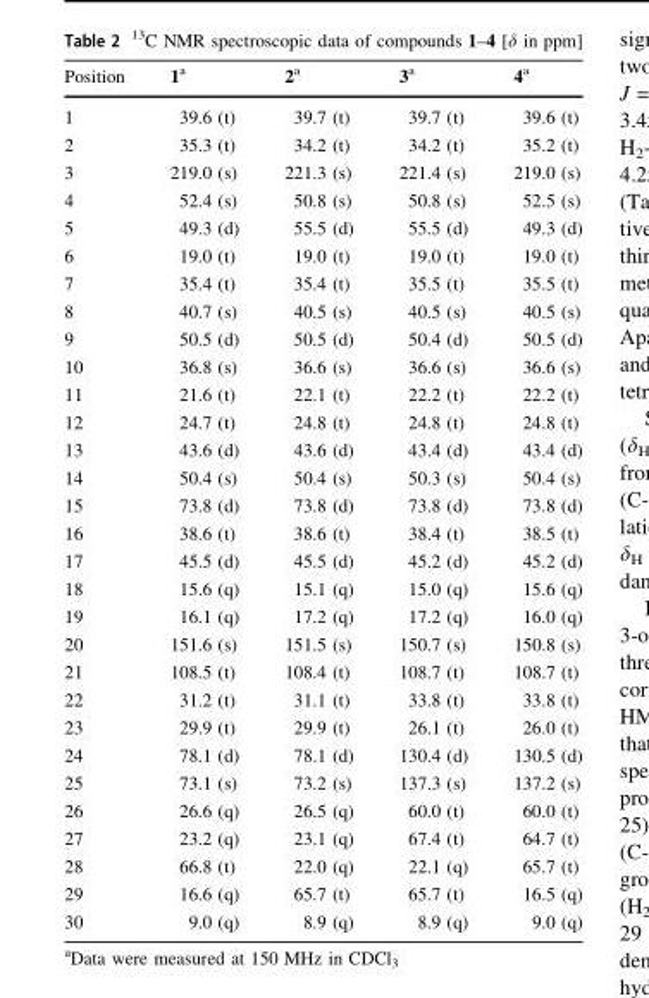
<table><thead><tr><td>Position</td><td>1<sup>a</sup></td><td>2<sup>a</sup></td><td>3<sup>a</sup></td><td>4<sup>a</sup></td></tr></thead><tbody><tr><td>1</td><td>39.6 (t)</td><td>39.7 (t)</td><td>39.7 (t)</td><td>39.6 (t)</td></tr><tr><td>2</td><td>35.3 (t)</td><td>34.2 (t)</td><td>34.2 (t)</td><td>35.2 (t)</td></tr><tr><td>3</td><td>219.0 (s)</td><td>221.3 (s)</td><td>221.4 (s)</td><td>219.0 (s)</td></tr><tr><td>4</td><td>52.4 (s)</td><td>50.8 (s)</td><td>50.8 (s)</td><td>52.5 (s)</td></tr><tr><td>5</td><td>49.3 (d)</td><td>55.5 (d)</td><td>55.5 (d)</td><td>49.3 (d)</td></tr><tr><td>6</td><td>19.0 (t)</td><td>19.0 (t)</td><td>19.0 (t)</td><td>19.0 (t)</td></tr><tr><td>7</td><td>35.4 (t)</td><td>35.4 (t)</td><td>35.5 (t)</td><td>35.5 (t)</td></tr><tr><td>8</td><td>40.7 (s)</td><td>40.5 (s)</td><td>40.5 (s)</td><td>40.5 (s)</td></tr><tr><td>9</td><td>50.5 (d)</td><td>50.5 (d)</td><td>50.4 (d)</td><td>50.5 (d)</td></tr><tr><td>10</td><td>36.8 (s)</td><td>36.6 (s)</td><td>36.6 (s)</td><td>36.6 (s)</td></tr><tr><td>11</td><td>21.6 (t)</td><td>22.1 (t)</td><td>22.2 (t)</td><td>22.2 (t)</td></tr><tr><td>12</td><td>24.7 (t)</td><td>24.8 (t)</td><td>24.8 (t)</td><td>24.8 (t)</td></tr><tr><td>13</td><td>43.6 (d)</td><td>43.6 (d)</td><td>43.4 (d)</td><td>43.4 (d)</td></tr><tr><td>14</td><td>50.4 (s)</td><td>50.4 (s)</td><td>50.3 (s)</td><td>50.4 (s)</td></tr><tr><td>15</td><td>73.8 (d)</td><td>73.8 (d)</td><td>73.8 (d)</td><td>73.8 (d)</td></tr><tr><td>16</td><td>38.6 (t)</td><td>38.6 (t)</td><td>38.4 (t)</td><td>38.5 (t)</td></tr><tr><td>17</td><td>45.5 (d)</td><td>45.5 (d)</td><td>45.2 (d)</td><td>45.2 (d)</td></tr><tr><td>18</td><td>15.6 (q)</td><td>15.1 (q)</td><td>15.0 (q)</td><td>15.6 (q)</td></tr><tr><td>19</td><td>16.1 (q)</td><td>17.2 (q)</td><td>17.2 (q)</td><td>16.0 (q)</td></tr><tr><td>20</td><td>151.6 (s)</td><td>151.5 (s)</td><td>150.7 (s)</td><td>150.8 (s)</td></tr><tr><td>21</td><td>108.5 (t)</td><td>108.4 (t)</td><td>108.7 (t)</td><td>108.7 (t)</td></tr><tr><td>22</td><td>31.2 (t)</td><td>31.1 (t)</td><td>33.8 (t)</td><td>33.8 (t)</td></tr><tr><td>23</td><td>29.9 (t)</td><td>29.9 (t)</td><td>26.1 (t)</td><td>26.0 (t)</td></tr><tr><td>24</td><td>78.1 (d)</td><td>78.1 (d)</td><td>130.4 (d)</td><td>130.5 (d)</td></tr><tr><td>25</td><td>73.1 (s)</td><td>73.2 (s)</td><td>137.3 (s)</td><td>137.2 (s)</td></tr><tr><td>26</td><td>26.6 (q)</td><td>26.5 (q)</td><td>60.0 (t)</td><td>60.0 (t)</td></tr><tr><td>27</td><td>23.2 (q)</td><td>23.1 (q)</td><td>67.4 (t)</td><td>64.7 (t)</td></tr><tr><td>28</td><td>66.8 (t)</td><td>22.0 (q)</td><td>22.1 (q)</td><td>65.7 (t)</td></tr><tr><td>29</td><td>16.6 (q)</td><td>65.7 (t)</td><td>65.7 (t)</td><td>16.5 (q)</td></tr><tr><td>30</td><td>9.0 (q)</td><td>8.9 (q)</td><td>8.9 (q)</td><td>9.0 (q)</td></tr></tbody></table>